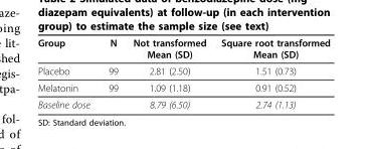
<table><thead><tr><td>Group</td><td>N</td><td>Not transformed Mean (SD)</td><td>Square root transformed Mean (SD)</td></tr></thead><tbody><tr><td>Placebo</td><td>99</td><td>2.81 (2.50)</td><td>1.51 (0.73)</td></tr><tr><td>Melatonin</td><td>99</td><td>1.09 (1.18)</td><td>0.91 (0.52)</td></tr><tr><td>Baseline dose</td><td></td><td>8.79 (6.50)</td><td>2.74 (1.13)</td></tr></tbody></table>